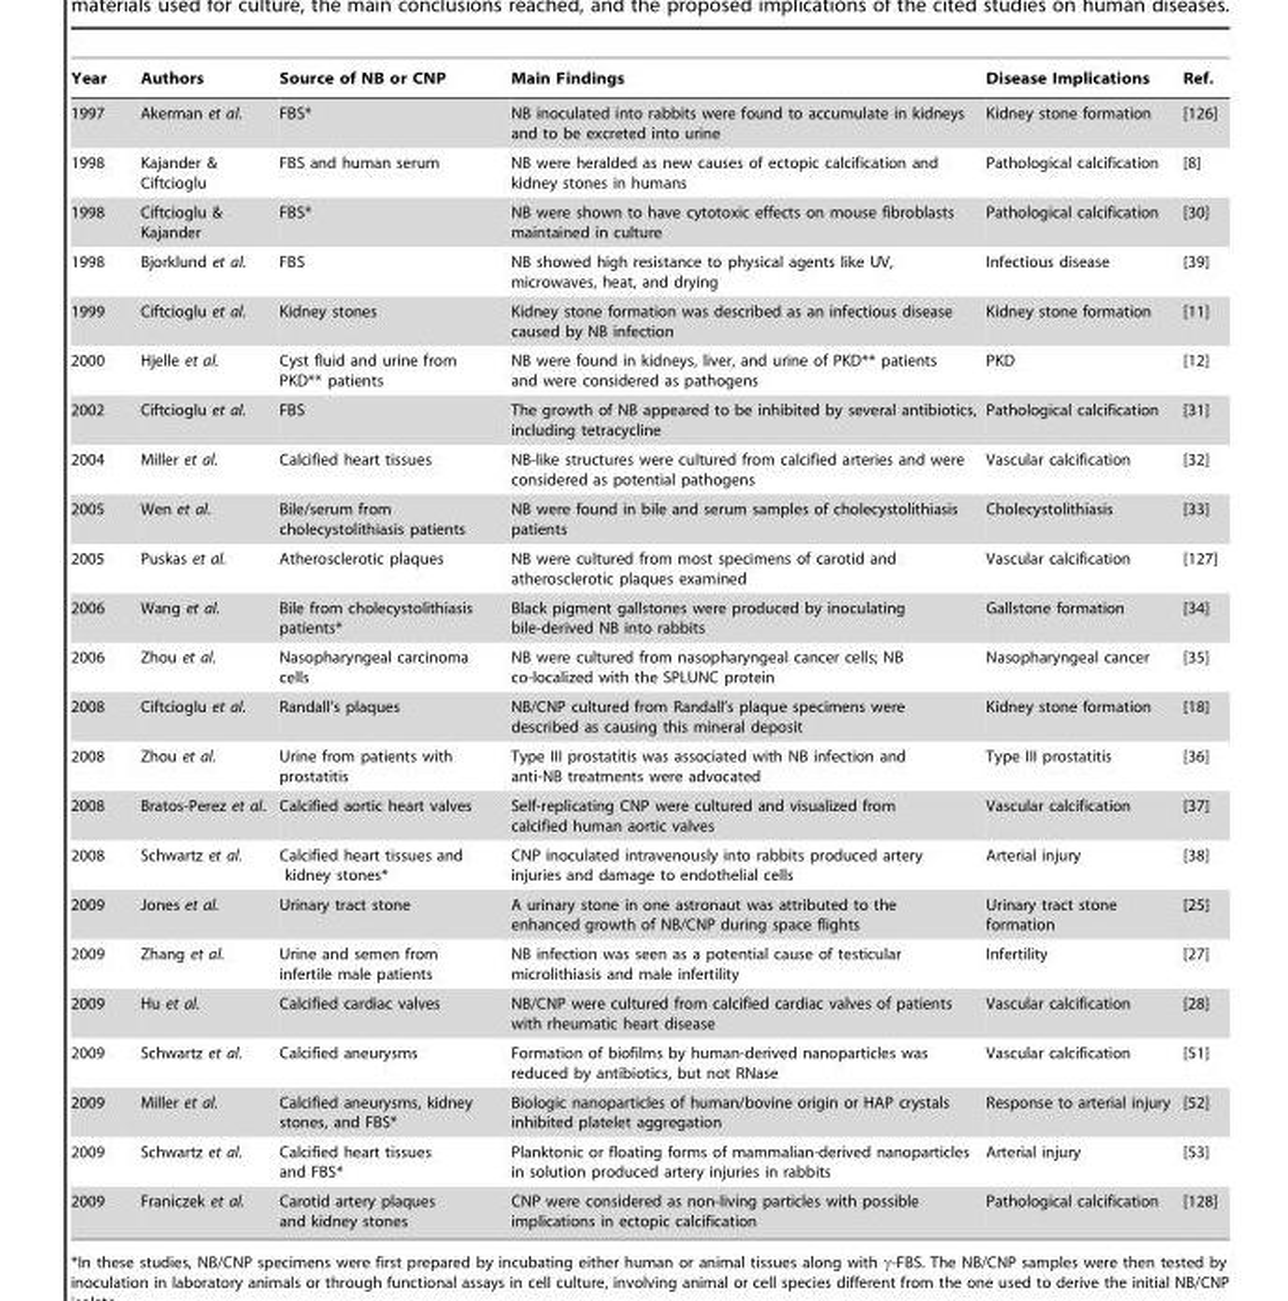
<table><thead><tr><td>Year</td><td>Authors</td><td>Source of NB or CNP</td><td>Main Findings</td><td>Disease Implications</td><td>Ref.</td></tr></thead><tbody><tr><td>1997</td><td>Akerman et al.</td><td>FBS*</td><td>NB inoculated into rabbits were found to accumulate in kidneys and to be excreted into urine</td><td>Kidney stone formation</td><td>[126]</td></tr><tr><td>1998</td><td>Kajander &amp; Ciftcioglu</td><td>FBS and human serum</td><td>NB were heralded as new causes of ectopic calcification and kidney stones in humans</td><td>Pathological calcification</td><td>[8]</td></tr><tr><td>1998</td><td>Ciftcioglu &amp; Kajander</td><td>FBS*</td><td>NB were shown to have cytotoxic effects on mouse fibroblasts maintained in culture</td><td>Pathological calcification</td><td>[30]</td></tr><tr><td>1998</td><td>Bjorklund et al.</td><td>FBS</td><td>NB showed high resistance to physical agents like UV, microwaves, heat, and drying</td><td>Infectious disease</td><td>[39]</td></tr><tr><td>1999</td><td>Ciftcioglu et al.</td><td>Kidney stones</td><td>Kidney stone formation was described as an infectious disease caused by NB infection</td><td>Kidney stone formation</td><td>[11]</td></tr><tr><td>2000</td><td>Hjelle et al.</td><td>Cyst fluid and urine from PKD** patients</td><td>NB were found in kidneys, liver, and urine of PKD** patients and were considered as pathogens</td><td>PKD</td><td>[12]</td></tr><tr><td>2002</td><td>Ciftcioglu et al.</td><td>FBS</td><td>The growth of NB appeared to be inhibited by several antibiotics, including tetracycline</td><td>Pathological calcification</td><td>[31]</td></tr><tr><td>2004</td><td>Miller et al.</td><td>Calcified heart tissues</td><td>NB-like structures were cultured from calcified arteries and were considered as potential pathogens</td><td>Vascular calcification</td><td>[32]</td></tr><tr><td>2005</td><td>Wen et al.</td><td>Bile/serum from cholecystolithiasis patients</td><td>NB were found in bile and serum samples of cholecystolithiasis patients</td><td>Cholecystolithiasis</td><td>[33]</td></tr><tr><td>2005</td><td>Puskas et al.</td><td>Atherosclerotic plaques</td><td>NB were cultured from most specimens of carotid and atherosclerotic plaques examined</td><td>Vascular calcification</td><td>[127]</td></tr><tr><td>2006</td><td>Wang et al.</td><td>Bile from cholecystolithiasis patients*</td><td>Black pigment gallstones were produced by inoculating bile-derived NB into rabbits</td><td>Gallstone formation</td><td>[34]</td></tr><tr><td>2006</td><td>Zhou et al.</td><td>Nasopharyngeal carcinoma cells</td><td>NB were cultured from nasopharyngeal cancer cells; NB co-localized with the SPLUNC protein</td><td>Nasopharyngeal cancer</td><td>[35]</td></tr><tr><td>2008</td><td>Ciftcioglu et al.</td><td>Randall’s plaques</td><td>NB/CNP cultured from Randall’s plaque specimens were described as causing this mineral deposit</td><td>Kidney stone formation</td><td>[18]</td></tr><tr><td>2008</td><td>Zhou et al.</td><td>Urine from patients with prostatitis</td><td>Type III prostatitis was associated with NB infection and anti-NB treatments were advocated</td><td>Type III prostatitis</td><td>[36]</td></tr><tr><td>2008</td><td>Bratos-Perez et al.</td><td>Calcified aortic heart valves</td><td>Self-replicating CNP were cultured and visualized from calcified human aortic valves</td><td>Vascular calcification</td><td>[37]</td></tr><tr><td>2008</td><td>Schwartz et al.</td><td>Calcified heart tissues and kidney stones*</td><td>CNP inoculated intravenously into rabbits produced artery injuries and damage to endothelial cells</td><td>Arterial injury</td><td>[38]</td></tr><tr><td>2009</td><td>Jones et al.</td><td>Urinary tract stone</td><td>A urinary stone in one astronaut was attributed to the enhanced growth of NB/CNP during space flights</td><td>Urinary tract stone formation</td><td>[25]</td></tr><tr><td>2009</td><td>Zhang et al.</td><td>Urine and semen from infertile male patients</td><td>NB infection was seen as a potential cause of testicular microlithiasis and male infertility</td><td>Infertility</td><td>[27]</td></tr><tr><td>2009</td><td>Hu et al.</td><td>Calcified cardiac valves</td><td>NB/CNP were cultured from calcified cardiac valves of patients with rheumatic heart disease</td><td>Vascular calcification</td><td>[28]</td></tr><tr><td>2009</td><td>Schwartz et al.</td><td>Calcified aneurysms</td><td>Formation of biofilms by human-derived nanoparticles was reduced by antibiotics, but not RNase</td><td>Vascular calcification</td><td>[51]</td></tr><tr><td>2009</td><td>Miller et al.</td><td>Calcified aneurysms, kidney stones, and FBS*</td><td>Biologic nanoparticles of human/bovine origin or HAP crystals inhibited platelet aggregation</td><td>Response to arterial injury</td><td>[52]</td></tr><tr><td>2009</td><td>Schwartz et al.</td><td>Calcified heart tissues and FBS*</td><td>Planktonic or floating forms of mammalian-derived nanoparticles in solution produced artery injuries in rabbits</td><td>Arterial injury</td><td>[53]</td></tr><tr><td>2009</td><td>Franiczek et al.</td><td>Carotid artery plaques and kidney stones</td><td>CNP were considered as non-living particles with possible implications in ectopic calcification</td><td>Pathological calcification</td><td>[128]</td></tr></tbody></table>